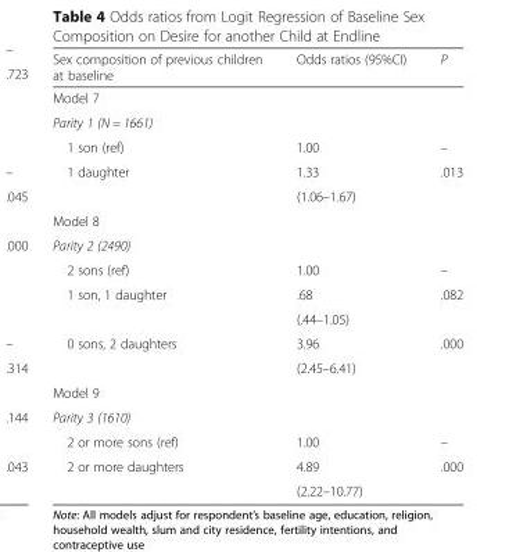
<table><thead><tr><td>Sex composition of previous children at baseline</td><td>Odds ratios (95%CI)</td><td>P</td></tr></thead><tbody><tr><td colspan="3">Model 7</td></tr><tr><td colspan="3">Parity 1 (N = 1661)</td></tr><tr><td>1 son (ref)</td><td>1.00</td><td>–</td></tr><tr><td rowspan="2">1 daughter</td><td>1.33</td><td>.013</td></tr><tr><td>(1.06–1.67)</td><td></td></tr><tr><td colspan="3">Model 8</td></tr><tr><td colspan="3">Parity 2 (2490)</td></tr><tr><td>2 sons (ref)</td><td>1.00</td><td>–</td></tr><tr><td rowspan="2">1 son, 1 daughter</td><td>.68</td><td>.082</td></tr><tr><td>(.44–1.05)</td><td></td></tr><tr><td rowspan="2">0 sons, 2 daughters</td><td>3.96</td><td>.000</td></tr><tr><td>(2.45–6.41)</td><td></td></tr><tr><td colspan="3">Model 9</td></tr><tr><td colspan="3">Parity 3 (1610)</td></tr><tr><td>2 or more sons (ref)</td><td>1.00</td><td>–</td></tr><tr><td rowspan="2">2 or more daughters</td><td>4.89</td><td>.000</td></tr><tr><td>(2.22–10.77)</td><td></td></tr></tbody></table>